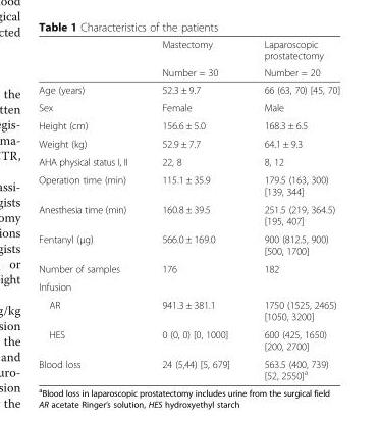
<table><thead><tr><td rowspan="2"></td><td rowspan="2">Mastectomy Number = 30</td><td rowspan="2">Laparoscopic prostatectomy Number = 20</td></tr><tr></tr></thead><tbody><tr><td>Age (years)</td><td>52.3 ± 9.7</td><td>66 (63, 70) [45, 70]</td></tr><tr><td>Sex</td><td>Female</td><td>Male</td></tr><tr><td>Height (cm)</td><td>156.6 ± 5.0</td><td>168.3 ± 6.5</td></tr><tr><td>Weight (kg)</td><td>52.9 ± 7.7</td><td>64.1 ± 9.3</td></tr><tr><td>AHA physical status I, II</td><td>22, 8</td><td>8, 12</td></tr><tr><td>Operation time (min)</td><td>115.1 ± 35.9</td><td>179.5 (163, 300) [139, 344]</td></tr><tr><td>Anesthesia time (min)</td><td>160.8 ± 39.5</td><td>251.5 (219, 364.5) [195, 407]</td></tr><tr><td>Fentanyl (μg)</td><td>566.0 ± 169.0</td><td>900 (812.5, 900) [500, 1700]</td></tr><tr><td>Number of samples</td><td>176</td><td>182</td></tr><tr><td colspan="3">Infusion</td></tr><tr><td>AR</td><td>941.3 ± 381.1</td><td>1750 (1525, 2465) [1050, 3200]</td></tr><tr><td>HES</td><td>0 (0, 0) [0, 1000]</td><td>600 (425, 1650) [200, 2700]</td></tr><tr><td>Blood loss</td><td>24 (5,44) [5, 679]</td><td>563.5 (400, 739) [52, 2550]<sup>a</sup></td></tr></tbody></table>